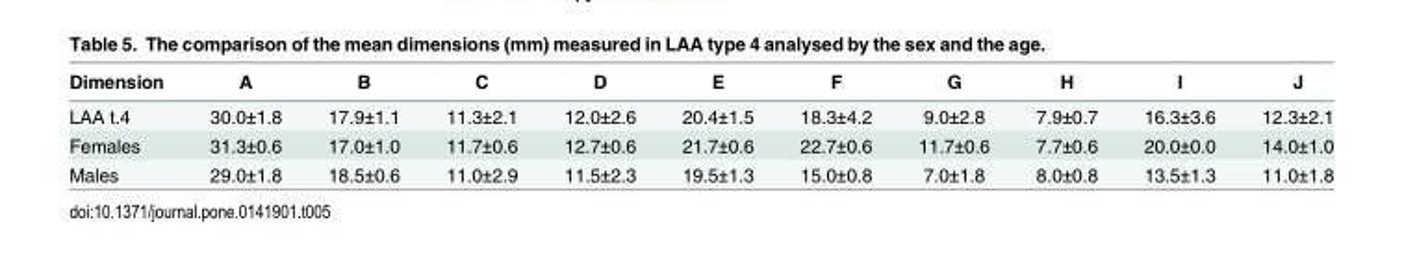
<table><thead><tr><td>Dimension</td><td>A</td><td>B</td><td>C</td><td>D</td><td>E</td><td>F</td><td>G</td><td>H</td><td>I</td><td>J</td></tr></thead><tbody><tr><td>LAA t.4</td><td>30.0±1.8</td><td>17.9±1.1</td><td>11.3±2.1</td><td>12.0±2.6</td><td>20.4±1.5</td><td>18.3±4.2</td><td>9.0±2.8</td><td>7.9±0.7</td><td>16.3±3.6</td><td>12.3±2.1</td></tr><tr><td>Females</td><td>31.3±0.6</td><td>17.0±1.0</td><td>11.7±0.6</td><td>12.7±0.6</td><td>21.7±0.6</td><td>22.7±0.6</td><td>11.7±0.6</td><td>7.7±0.6</td><td>20.0±0.0</td><td>14.0±1.0</td></tr><tr><td>Males</td><td>29.0±1.8</td><td>18.5±0.6</td><td>11.0±2.9</td><td>11.5±2.3</td><td>19.5±1.3</td><td>15.0±0.8</td><td>7.0±1.8</td><td>8.0±0.8</td><td>13.5±1.3</td><td>11.0±1.8</td></tr></tbody></table>